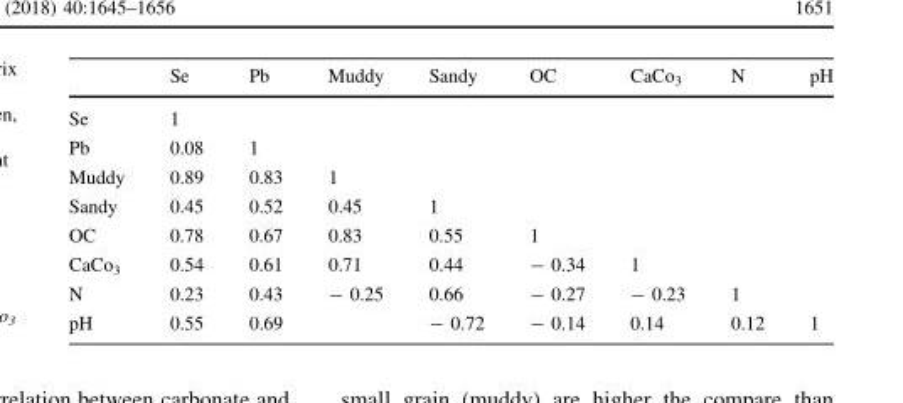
<table><thead><tr><td></td><td>Se</td><td>Pb</td><td>Muddy</td><td>Sandy</td><td>OC</td><td>CaCo<sub>3</sub></td><td>N</td><td>pH</td></tr></thead><tbody><tr><td>Se</td><td>1</td><td></td><td></td><td></td><td></td><td></td><td></td><td></td></tr><tr><td>Pb</td><td>0.08</td><td>1</td><td></td><td></td><td></td><td></td><td></td><td></td></tr><tr><td>Muddy</td><td>0.89</td><td>0.83</td><td>1</td><td></td><td></td><td></td><td></td><td></td></tr><tr><td>Sandy</td><td>0.45</td><td>0.52</td><td>0.45</td><td>1</td><td></td><td></td><td></td><td></td></tr><tr><td>OC</td><td>0.78</td><td>0.67</td><td>0.83</td><td>0.55</td><td>1</td><td></td><td></td><td></td></tr><tr><td>CaCo<sub>3</sub></td><td>0.54</td><td>0.61</td><td>0.71</td><td>0.44</td><td>- 0.34</td><td>1</td><td></td><td></td></tr><tr><td>N</td><td>0.23</td><td>0.43</td><td>- 0.25</td><td>0.66</td><td>- 0.27</td><td>- 0.23</td><td>1</td><td></td></tr><tr><td>pH</td><td>0.55</td><td>0.69</td><td></td><td>- 0.72</td><td>- 0.14</td><td>0.14</td><td>0.12</td><td>1</td></tr></tbody></table>